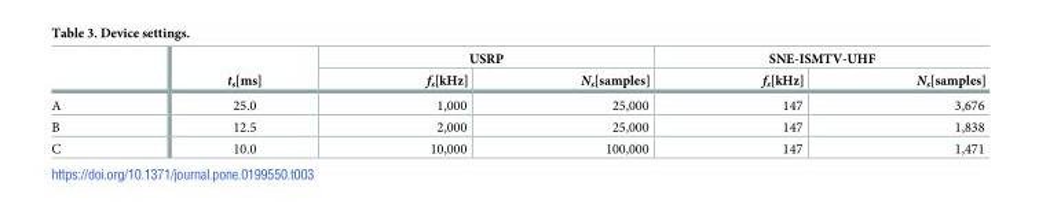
<table><thead><tr><td rowspan="2"></td><td rowspan="2">t<sub>s</sub>[ms]</td><td colspan="2">USRP</td><td colspan="2">SNE-ISMTV-UHF</td></tr><tr><td>f<sub>s</sub>[kHz]</td><td>N<sub>s</sub>[samples]</td><td>f<sub>s</sub>[kHz]</td><td>N<sub>s</sub>[samples]</td></tr></thead><tbody><tr><td>A</td><td>25.0</td><td>1,000</td><td>25,000</td><td>147</td><td>3,676</td></tr><tr><td>B</td><td>12.5</td><td>2,000</td><td>25,000</td><td>147</td><td>1,838</td></tr><tr><td>C</td><td>10.0</td><td>10,000</td><td>100,000</td><td>147</td><td>1,471</td></tr></tbody></table>